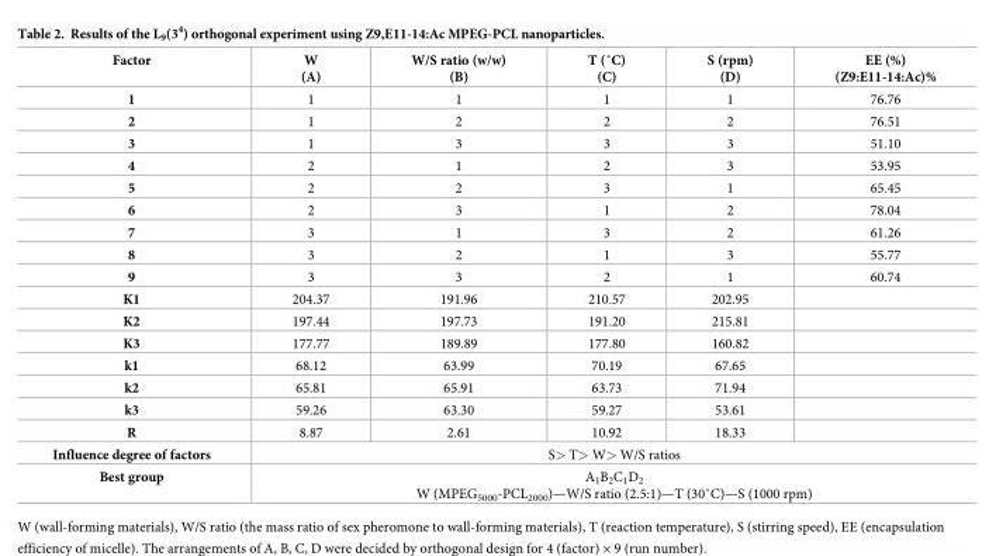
<table><thead><tr><td>Factor</td><td>W (A)</td><td>W/S ratio (w/w) (B)</td><td>T (˚C) (C)</td><td>S (rpm) (D)</td><td>EE (%) (Z9:E11-14:Ac)%</td></tr></thead><tbody><tr><td>1</td><td>1</td><td>1</td><td>1</td><td>1</td><td>76.76</td></tr><tr><td>2</td><td>1</td><td>2</td><td>2</td><td>2</td><td>76.51</td></tr><tr><td>3</td><td>1</td><td>3</td><td>3</td><td>3</td><td>51.10</td></tr><tr><td>4</td><td>2</td><td>1</td><td>2</td><td>3</td><td>53.95</td></tr><tr><td>5</td><td>2</td><td>2</td><td>3</td><td>1</td><td>65.45</td></tr><tr><td>6</td><td>2</td><td>3</td><td>1</td><td>2</td><td>78.04</td></tr><tr><td>7</td><td>3</td><td>1</td><td>3</td><td>2</td><td>61.26</td></tr><tr><td>8</td><td>3</td><td>2</td><td>1</td><td>3</td><td>55.77</td></tr><tr><td>9</td><td>3</td><td>3</td><td>2</td><td>1</td><td>60.74</td></tr><tr><td>K1</td><td>204.37</td><td>191.96</td><td>210.57</td><td>202.95</td><td></td></tr><tr><td>K2</td><td>197.44</td><td>197.73</td><td>191.20</td><td>215.81</td><td></td></tr><tr><td>K3</td><td>177.77</td><td>189.89</td><td>177.80</td><td>160.82</td><td></td></tr><tr><td>k1</td><td>68.12</td><td>63.99</td><td>70.19</td><td>67.65</td><td></td></tr><tr><td>k2</td><td>65.81</td><td>65.91</td><td>63.73</td><td>71.94</td><td></td></tr><tr><td>k3</td><td>59.26</td><td>63.30</td><td>59.27</td><td>53.61</td><td></td></tr><tr><td>R</td><td>8.87</td><td>2.61</td><td>10.92</td><td>18.33</td><td></td></tr><tr><td>Influence degree of factors</td><td colspan="5">S&gt; T&gt; W&gt; W/S ratios</td></tr><tr><td>Best group</td><td colspan="5">A1B2C1D2 W (MPEG5000-PCL2000)—W/S ratio (2.5:1)—T (30˚C)—S (1000 rpm)</td></tr></tbody></table>